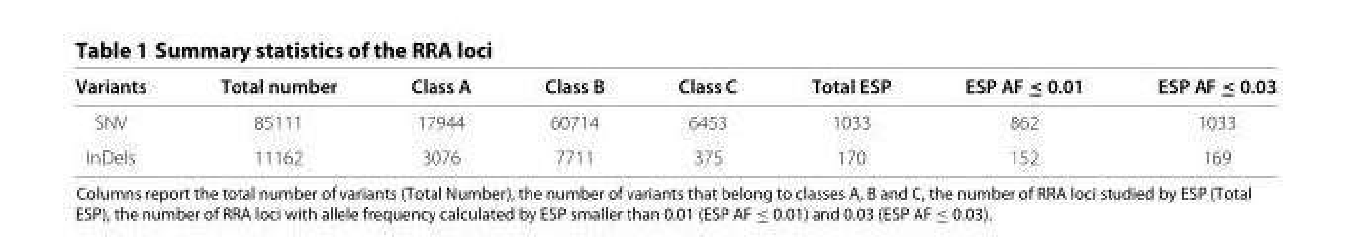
<table><thead><tr><td>Variants</td><td>Total number</td><td>Class A</td><td>Class B</td><td>Class C</td><td>Total ESP</td><td>ESP AF ≤ 0.01</td><td>ESP AF ≤ 0.03</td></tr></thead><tbody><tr><td>SNV</td><td>85111</td><td>17944</td><td>60714</td><td>6453</td><td>1033</td><td>862</td><td>1033</td></tr><tr><td>InDels</td><td>11162</td><td>3076</td><td>7711</td><td>375</td><td>170</td><td>152</td><td>169</td></tr></tbody></table>